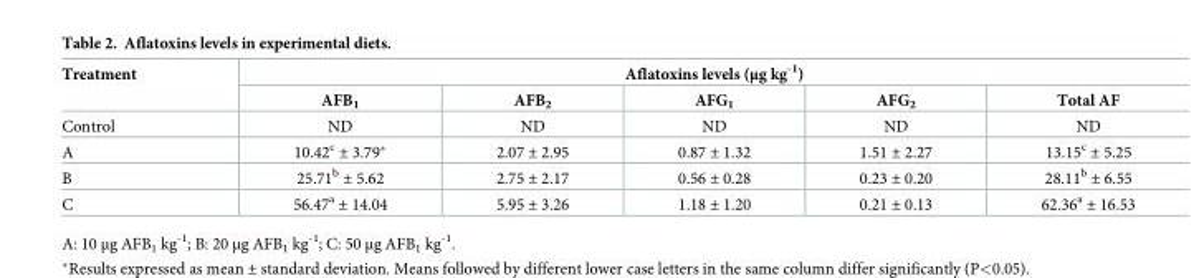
<table><thead><tr><td rowspan="2">Treatment</td><td colspan="5">Aflatoxins levels (μg kg<sup>-1</sup>)</td></tr><tr><td>AFB<sub>1</sub></td><td>AFB<sub>2</sub></td><td>AFG<sub>1</sub></td><td>AFG<sub>2</sub></td><td>Total AF</td></tr></thead><tbody><tr><td>Control</td><td>ND</td><td>ND</td><td>ND</td><td>ND</td><td>ND</td></tr><tr><td>A</td><td>10.42<sup>c</sup> ± 3.79*</td><td>2.07 ± 2.95</td><td>0.87 ± 1.32</td><td>1.51 ± 2.27</td><td>13.15<sup>c</sup> ± 5.25</td></tr><tr><td>B</td><td>25.71<sup>b</sup> ± 5.62</td><td>2.75 ± 2.17</td><td>0.56 ± 0.28</td><td>0.23 ± 0.20</td><td>28.11<sup>b</sup> ± 6.55</td></tr><tr><td>C</td><td>56.47<sup>a</sup> ± 14.04</td><td>5.95 ± 3.26</td><td>1.18 ± 1.20</td><td>0.21 ± 0.13</td><td>62.36<sup>a</sup> ± 16.53</td></tr></tbody></table>